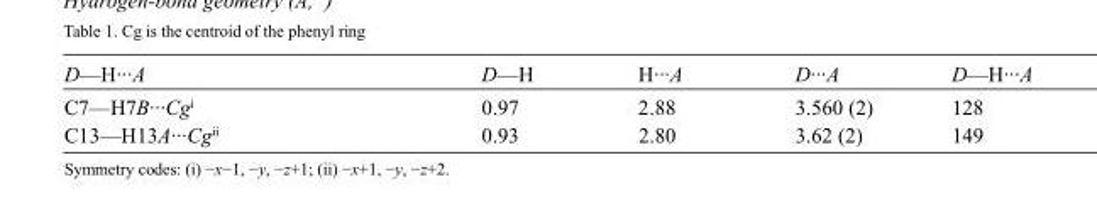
<table><tbody><tr><td>D—H···A</td><td>D—H</td><td>H···A</td><td>D···A</td><td>D—H···A</td></tr><tr><td>C7—H7B···Cg<sup>i</sup></td><td>0.97</td><td>2.88</td><td>3.560 (2)</td><td>128</td></tr><tr><td>C13—H13A···Cg<sup>ii</sup></td><td>0.93</td><td>2.80</td><td>3.62 (2)</td><td>149</td></tr></tbody></table>